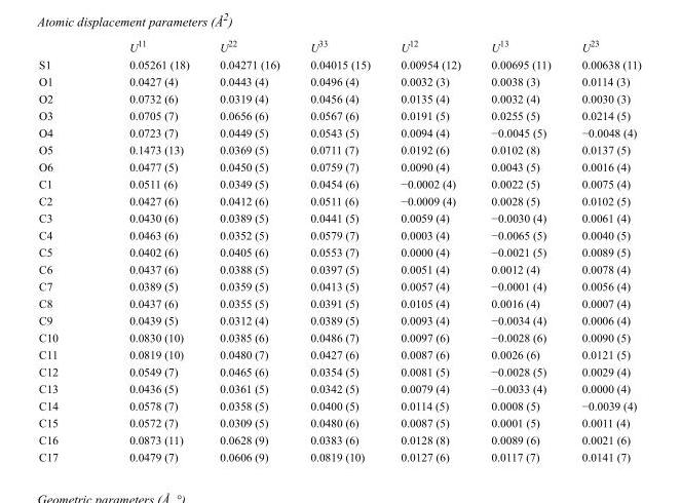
<table><thead><tr><td></td><td>U<sup>11</sup></td><td>U<sup>22</sup></td><td>U<sup>33</sup></td><td>U<sup>12</sup></td><td>U<sup>13</sup></td><td>U<sup>23</sup></td></tr></thead><tbody><tr><td>S1</td><td>0.05261 (18)</td><td>0.04271 (16)</td><td>0.04015 (15)</td><td>0.00954 (12)</td><td>0.00695 (11)</td><td>0.00638 (11)</td></tr><tr><td>O1</td><td>0.0427 (4)</td><td>0.0443 (4)</td><td>0.0496 (4)</td><td>0.0032 (3)</td><td>0.0038 (3)</td><td>0.0114 (3)</td></tr><tr><td>O2</td><td>0.0732 (6)</td><td>0.0319 (4)</td><td>0.0456 (4)</td><td>0.0135 (4)</td><td>0.0032 (4)</td><td>0.0030 (3)</td></tr><tr><td>O3</td><td>0.0705 (7)</td><td>0.0656 (6)</td><td>0.0567 (6)</td><td>0.0191 (5)</td><td>0.0255 (5)</td><td>0.0214 (5)</td></tr><tr><td>O4</td><td>0.0723 (7)</td><td>0.0449 (5)</td><td>0.0543 (5)</td><td>0.0094 (4)</td><td>−0.0045 (5)</td><td>−0.0048 (4)</td></tr><tr><td>O5</td><td>0.1473 (13)</td><td>0.0369 (5)</td><td>0.0711 (7)</td><td>0.0192 (6)</td><td>0.0102 (8)</td><td>0.0137 (5)</td></tr><tr><td>O6</td><td>0.0477 (5)</td><td>0.0450 (5)</td><td>0.0759 (7)</td><td>0.0090 (4)</td><td>0.0043 (5)</td><td>0.0016 (4)</td></tr><tr><td>C1</td><td>0.0511 (6)</td><td>0.0349 (5)</td><td>0.0454 (6)</td><td>−0.0002 (4)</td><td>0.0022 (5)</td><td>0.0075 (4)</td></tr><tr><td>C2</td><td>0.0427 (6)</td><td>0.0412 (6)</td><td>0.0511 (6)</td><td>−0.0009 (4)</td><td>0.0028 (5)</td><td>0.0102 (5)</td></tr><tr><td>C3</td><td>0.0430 (6)</td><td>0.0389 (5)</td><td>0.0441 (5)</td><td>0.0059 (4)</td><td>−0.0030 (4)</td><td>0.0061 (4)</td></tr><tr><td>C4</td><td>0.0463 (6)</td><td>0.0352 (5)</td><td>0.0579 (7)</td><td>0.0003 (4)</td><td>−0.0065 (5)</td><td>0.0040 (5)</td></tr><tr><td>C5</td><td>0.0402 (6)</td><td>0.0405 (6)</td><td>0.0553 (7)</td><td>0.0000 (4)</td><td>−0.0021 (5)</td><td>0.0089 (5)</td></tr><tr><td>C6</td><td>0.0437 (6)</td><td>0.0388 (5)</td><td>0.0397 (5)</td><td>0.0051 (4)</td><td>0.0012 (4)</td><td>0.0078 (4)</td></tr><tr><td>C7</td><td>0.0389 (5)</td><td>0.0359 (5)</td><td>0.0413 (5)</td><td>0.0057 (4)</td><td>−0.0001 (4)</td><td>0.0056 (4)</td></tr><tr><td>C8</td><td>0.0437 (6)</td><td>0.0355 (5)</td><td>0.0391 (5)</td><td>0.0105 (4)</td><td>0.0016 (4)</td><td>0.0007 (4)</td></tr><tr><td>C9</td><td>0.0439 (5)</td><td>0.0312 (4)</td><td>0.0389 (5)</td><td>0.0093 (4)</td><td>−0.0034 (4)</td><td>0.0006 (4)</td></tr><tr><td>C10</td><td>0.0830 (10)</td><td>0.0385 (6)</td><td>0.0486 (7)</td><td>0.0097 (6)</td><td>−0.0028 (6)</td><td>0.0090 (5)</td></tr><tr><td>C11</td><td>0.0819 (10)</td><td>0.0480 (7)</td><td>0.0427 (6)</td><td>0.0087 (6)</td><td>0.0026 (6)</td><td>0.0121 (5)</td></tr><tr><td>C12</td><td>0.0549 (7)</td><td>0.0465 (6)</td><td>0.0354 (5)</td><td>0.0081 (5)</td><td>−0.0028 (5)</td><td>0.0029 (4)</td></tr><tr><td>C13</td><td>0.0436 (5)</td><td>0.0361 (5)</td><td>0.0342 (5)</td><td>0.0079 (4)</td><td>−0.0033 (4)</td><td>0.0000 (4)</td></tr><tr><td>C14</td><td>0.0578 (7)</td><td>0.0358 (5)</td><td>0.0400 (5)</td><td>0.0114 (5)</td><td>0.0008 (5)</td><td>−0.0039 (4)</td></tr><tr><td>C15</td><td>0.0572 (7)</td><td>0.0309 (5)</td><td>0.0480 (6)</td><td>0.0087 (5)</td><td>0.0001 (5)</td><td>0.0011 (4)</td></tr><tr><td>C16</td><td>0.0873 (11)</td><td>0.0628 (9)</td><td>0.0383 (6)</td><td>0.0128 (8)</td><td>0.0089 (6)</td><td>0.0021 (6)</td></tr><tr><td>C17</td><td>0.0479 (7)</td><td>0.0606 (9)</td><td>0.0819 (10)</td><td>0.0127 (6)</td><td>0.0117 (7)</td><td>0.0141 (7)</td></tr></tbody></table>